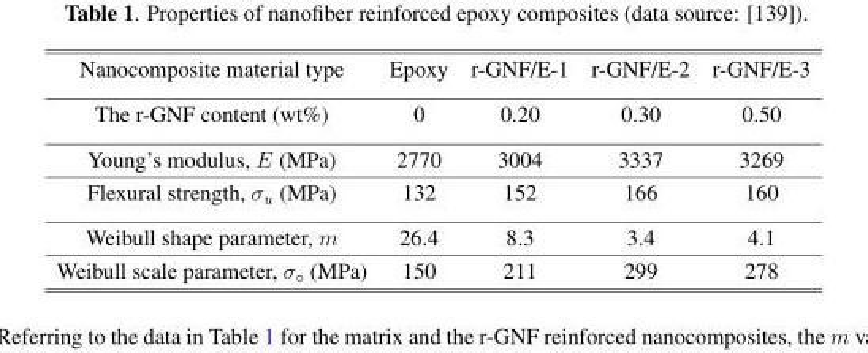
<table><thead><tr><td>Nanocomposite material type</td><td>Epoxy</td><td>r-GNF/E-1</td><td>r-GNF/E-2</td><td>r-GNF/E-3</td></tr></thead><tbody><tr><td>The r-GNF content (wt%)</td><td>0</td><td>0.20</td><td>0.30</td><td>0.50</td></tr><tr><td>Young’s modulus, E (MPa)</td><td>2770</td><td>3004</td><td>3337</td><td>3269</td></tr><tr><td>Flexural strength, σ<sub>u</sub> (MPa)</td><td>132</td><td>152</td><td>166</td><td>160</td></tr><tr><td>Weibull shape parameter, m</td><td>26.4</td><td>8.3</td><td>3.4</td><td>4.1</td></tr><tr><td>Weibull scale parameter, σ◦ (MPa)</td><td>150</td><td>211</td><td>299</td><td>278</td></tr></tbody></table>